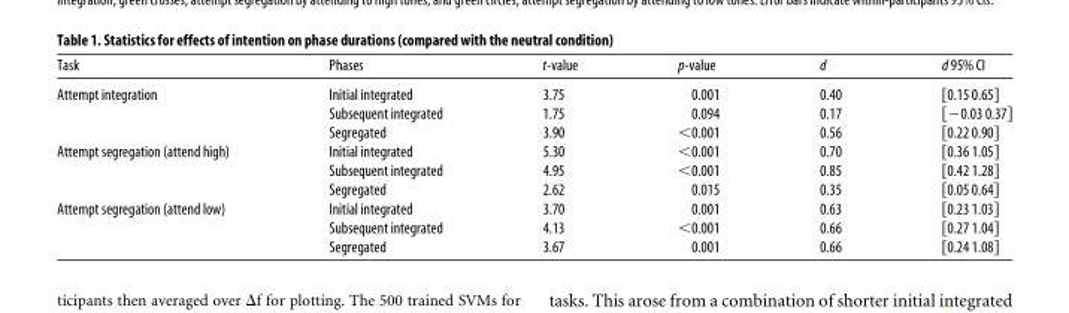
<table><thead><tr><td>Task</td><td>Phases</td><td>t-value</td><td>p-value</td><td>d</td><td>d 95% CI</td></tr></thead><tbody><tr><td rowspan="3">Attempt integration</td><td>Initial integrated</td><td>3.75</td><td>0.001</td><td>0.40</td><td>[0.15 0.65]</td></tr><tr><td>Subsequent integrated</td><td>1.75</td><td>0.094</td><td>0.17</td><td>[−0.03 0.37]</td></tr><tr><td>Segregated</td><td>3.90</td><td>&lt;0.001</td><td>0.56</td><td>[0.22 0.90]</td></tr><tr><td rowspan="3">Attempt segregation (attend high)</td><td>Initial integrated</td><td>5.30</td><td>&lt;0.001</td><td>0.70</td><td>[0.36 1.05]</td></tr><tr><td>Subsequent integrated</td><td>4.95</td><td>&lt;0.001</td><td>0.85</td><td>[0.42 1.28]</td></tr><tr><td>Segregated</td><td>2.62</td><td>0.015</td><td>0.35</td><td>[0.05 0.64]</td></tr><tr><td rowspan="3">Attempt segregation (attend low)</td><td>Initial integrated</td><td>3.70</td><td>0.001</td><td>0.63</td><td>[0.23 1.03]</td></tr><tr><td>Subsequent integrated</td><td>4.13</td><td>&lt;0.001</td><td>0.66</td><td>[0.27 1.04]</td></tr><tr><td>Segregated</td><td>3.67</td><td>0.001</td><td>0.66</td><td>[0.24 1.08]</td></tr></tbody></table>